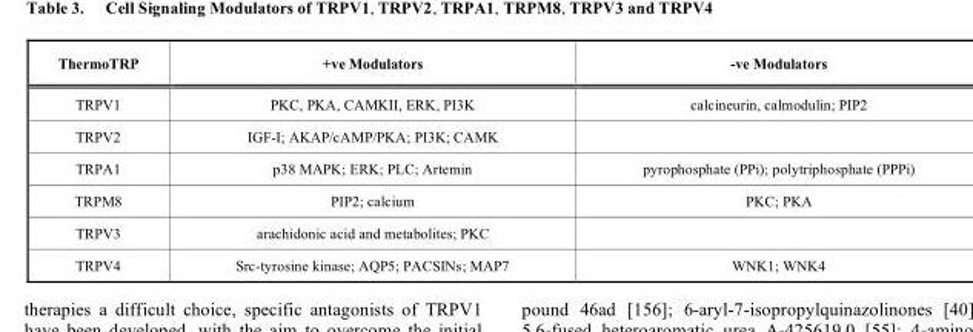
<table><thead><tr><td>ThermoTRP</td><td>+ve Modulators</td><td>-ve Modulators</td></tr></thead><tbody><tr><td>TRPV1</td><td>PKC, PKA, CAMKII, ERK, PI3K</td><td>calcineurin, calmodulin; PIP2</td></tr><tr><td>TRPV2</td><td>IGF-I; AKAP/cAMP/PKA; PI3K; CAMK</td><td></td></tr><tr><td>TRPA1</td><td>p38 MAPK; ERK; PLC; Artemin</td><td>pyrophosphate (PPi); polytriphosphate (PPPi)</td></tr><tr><td>TRPM8</td><td>PIP2; calcium</td><td>PKC; PKA</td></tr><tr><td>TRPV3</td><td>arachidonic acid and metabolites; PKC</td><td></td></tr><tr><td>TRPV4</td><td>Src-tyrosine kinase; AQP5; PACSINs; MAP7</td><td>WNK1; WNK4</td></tr></tbody></table>